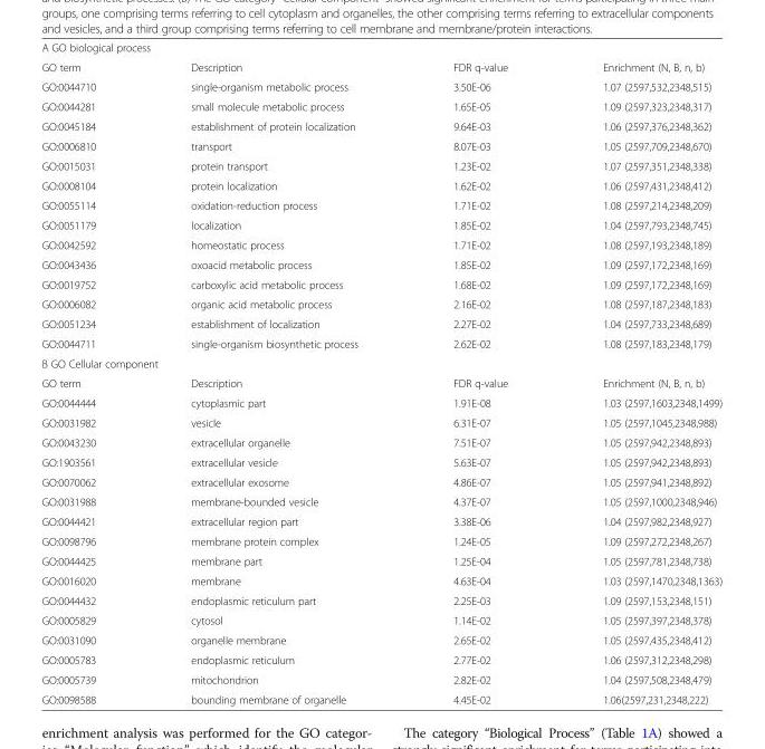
<table><tbody><tr><td colspan="4">A GO biological process</td></tr><tr><td>GO term</td><td>Description</td><td>FDR q-value</td><td>Enrichment (N, B, n, b)</td></tr><tr><td>GO:0044710</td><td>single-organism metabolic process</td><td>3.50E-06</td><td>1.07 (2597,532,2348,515)</td></tr><tr><td>GO:0044281</td><td>small molecule metabolic process</td><td>1.65E-05</td><td>1.09 (2597,323,2348,317)</td></tr><tr><td>GO:0045184</td><td>establishment of protein localization</td><td>9.64E-03</td><td>1.06 (2597,376,2348,362)</td></tr><tr><td>GO:0006810</td><td>transport</td><td>8.07E-03</td><td>1.05 (2597,709,2348,670)</td></tr><tr><td>GO:0015031</td><td>protein transport</td><td>1.23E-02</td><td>1.07 (2597,351,2348,338)</td></tr><tr><td>GO:0008104</td><td>protein localization</td><td>1.62E-02</td><td>1.06 (2597,431,2348,412)</td></tr><tr><td>GO:0055114</td><td>oxidation-reduction process</td><td>1.71E-02</td><td>1.08 (2597,214,2348,209)</td></tr><tr><td>GO:0051179</td><td>localization</td><td>1.85E-02</td><td>1.04 (2597,793,2348,745)</td></tr><tr><td>GO:0042592</td><td>homeostatic process</td><td>1.71E-02</td><td>1.08 (2597,193,2348,189)</td></tr><tr><td>GO:0043436</td><td>oxoacid metabolic process</td><td>1.85E-02</td><td>1.09 (2597,172,2348,169)</td></tr><tr><td>GO:0019752</td><td>carboxylic acid metabolic process</td><td>1.68E-02</td><td>1.09 (2597,172,2348,169)</td></tr><tr><td>GO:0006082</td><td>organic acid metabolic process</td><td>2.16E-02</td><td>1.08 (2597,187,2348,183)</td></tr><tr><td>GO:0051234</td><td>establishment of localization</td><td>2.27E-02</td><td>1.04 (2597,733,2348,689)</td></tr><tr><td>GO:0044711</td><td>single-organism biosynthetic process</td><td>2.62E-02</td><td>1.08 (2597,183,2348,179)</td></tr><tr><td colspan="4">B GO Cellular component</td></tr><tr><td>GO term</td><td>Description</td><td>FDR q-value</td><td>Enrichment (N, B, n, b)</td></tr><tr><td>GO:0044444</td><td>cytoplasmic part</td><td>1.91E-08</td><td>1.03 (2597,1603,2348,1499)</td></tr><tr><td>GO:0031982</td><td>vesicle</td><td>6.31E-07</td><td>1.05 (2597,1045,2348,988)</td></tr><tr><td>GO:0043230</td><td>extracellular organelle</td><td>7.51E-07</td><td>1.05 (2597,942,2348,893)</td></tr><tr><td>GO:1903561</td><td>extracellular vesicle</td><td>5.63E-07</td><td>1.05 (2597,942,2348,893)</td></tr><tr><td>GO:0070062</td><td>extracellular exosome</td><td>4.86E-07</td><td>1.05 (2597,941,2348,892)</td></tr><tr><td>GO:0031988</td><td>membrane-bounded vesicle</td><td>4.37E-07</td><td>1.05 (2597,1000,2348,946)</td></tr><tr><td>GO:0044421</td><td>extracellular region part</td><td>3.38E-06</td><td>1.04 (2597,982,2348,927)</td></tr><tr><td>GO:0098796</td><td>membrane protein complex</td><td>1.24E-05</td><td>1.09 (2597,272,2348,267)</td></tr><tr><td>GO:0044425</td><td>membrane part</td><td>1.25E-04</td><td>1.05 (2597,781,2348,738)</td></tr><tr><td>GO:0016020</td><td>membrane</td><td>4.63E-04</td><td>1.03 (2597,1470,2348,1363)</td></tr><tr><td>GO:0044432</td><td>endoplasmic reticulum part</td><td>2.25E-03</td><td>1.09 (2597,153,2348,151)</td></tr><tr><td>GO:0005829</td><td>cytosol</td><td>1.14E-02</td><td>1.05 (2597,397,2348,378)</td></tr><tr><td>GO:0031090</td><td>organelle membrane</td><td>2.65E-02</td><td>1.05 (2597,435,2348,412)</td></tr><tr><td>GO:0005783</td><td>endoplasmic reticulum</td><td>2.77E-02</td><td>1.06 (2597,312,2348,298)</td></tr><tr><td>GO:0005739</td><td>mitochondrion</td><td>2.82E-02</td><td>1.04 (2597,508,2348,479)</td></tr><tr><td>GO:0098588</td><td>bounding membrane of organelle</td><td>4.45E-02</td><td>1.06(2597,231,2348,222)</td></tr></tbody></table>